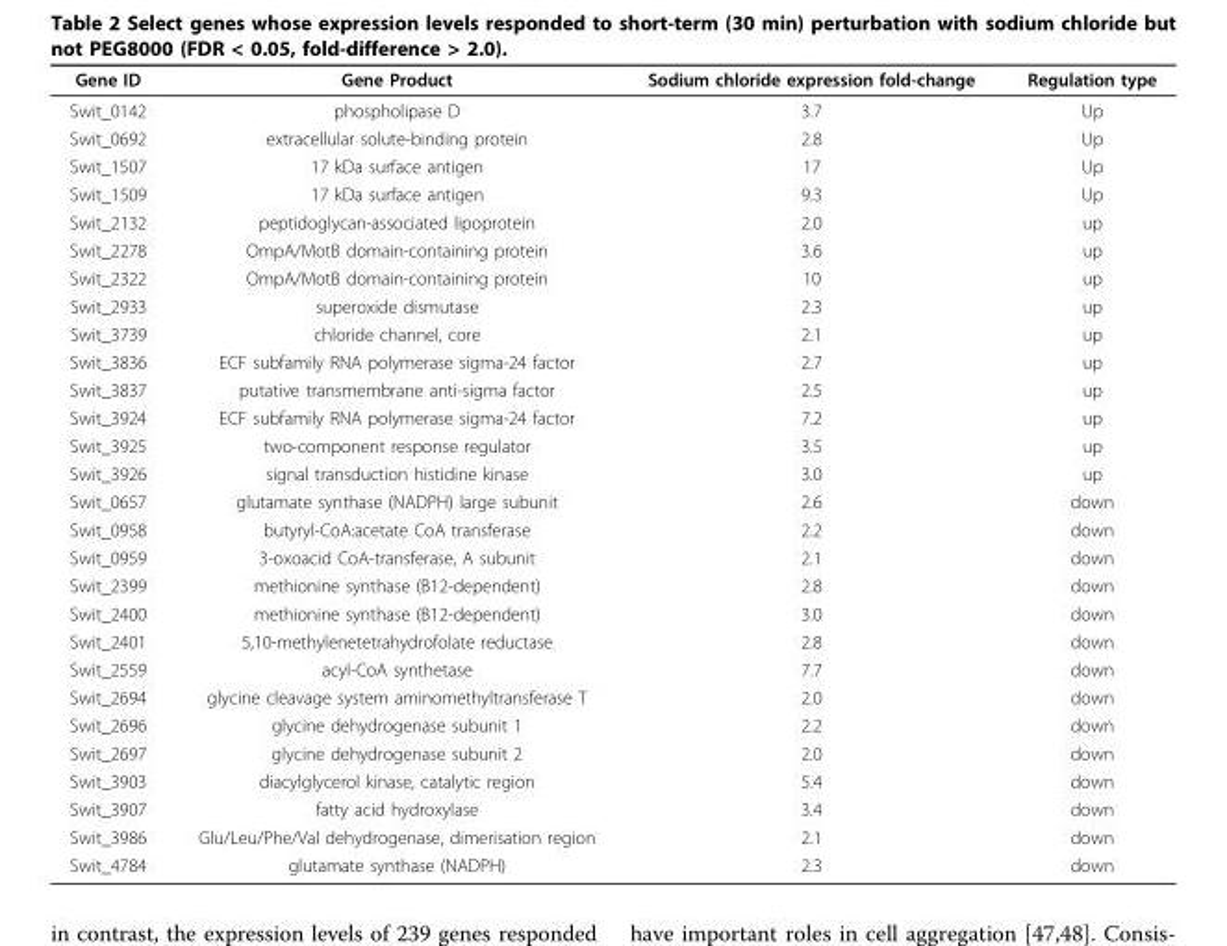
<table><thead><tr><td>Gene ID</td><td>Gene Product</td><td>Sodium chloride expression fold-change</td><td>Regulation type</td></tr></thead><tbody><tr><td>Swit_0142</td><td>phospholipase D</td><td>3.7</td><td>Up</td></tr><tr><td>Swit_0692</td><td>extracellular solute-binding protein</td><td>2.8</td><td>Up</td></tr><tr><td>Swit_1507</td><td>17 kDa surface antigen</td><td>17</td><td>Up</td></tr><tr><td>Swit_1509</td><td>17 kDa surface antigen</td><td>9.3</td><td>Up</td></tr><tr><td>Swit_2132</td><td>peptidoglycan-associated lipoprotein</td><td>2.0</td><td>up</td></tr><tr><td>Swit_2278</td><td>OmpA/MotB domain-containing protein</td><td>3.6</td><td>up</td></tr><tr><td>Swit_2322</td><td>OmpA/MotB domain-containing protein</td><td>10</td><td>up</td></tr><tr><td>Swit_2933</td><td>superoxide dismutase</td><td>2.3</td><td>up</td></tr><tr><td>Swit_3739</td><td>chloride channel, core</td><td>2.1</td><td>up</td></tr><tr><td>Swit_3836</td><td>ECF subfamily RNA polymerase sigma-24 factor</td><td>2.7</td><td>up</td></tr><tr><td>Swit_3837</td><td>putative transmembrane anti-sigma factor</td><td>2.5</td><td>up</td></tr><tr><td>Swit_3924</td><td>ECF subfamily RNA polymerase sigma-24 factor</td><td>7.2</td><td>up</td></tr><tr><td>Swit_3925</td><td>two-component response regulator</td><td>3.5</td><td>up</td></tr><tr><td>Swit_3926</td><td>signal transduction histidine kinase</td><td>3.0</td><td>up</td></tr><tr><td>Swit_0657</td><td>glutamate synthase (NADPH) large subunit</td><td>2.6</td><td>down</td></tr><tr><td>Swit_0958</td><td>butyryl-CoA:acetate CoA transferase</td><td>2.2</td><td>down</td></tr><tr><td>Swit_0959</td><td>3-oxoacid CoA-transferase, A subunit</td><td>2.1</td><td>down</td></tr><tr><td>Swit_2399</td><td>methionine synthase (B12-dependent)</td><td>2.8</td><td>down</td></tr><tr><td>Swit_2400</td><td>methionine synthase (B12-dependent)</td><td>3.0</td><td>down</td></tr><tr><td>Swit_2401</td><td>5,10-methylenetetrahydrofolate reductase</td><td>2.8</td><td>down</td></tr><tr><td>Swit_2559</td><td>acyl-CoA synthetase</td><td>7.7</td><td>down</td></tr><tr><td>Swit_2694</td><td>glycine cleavage system aminomethyltransferase T</td><td>2.0</td><td>down</td></tr><tr><td>Swit_2696</td><td>glycine dehydrogenase subunit 1</td><td>2.2</td><td>down</td></tr><tr><td>Swit_2697</td><td>glycine dehydrogenase subunit 2</td><td>2.0</td><td>down</td></tr><tr><td>Swit_3903</td><td>diacylglycerol kinase, catalytic region</td><td>5.4</td><td>down</td></tr><tr><td>Swit_3907</td><td>fatty acid hydroxylase</td><td>3.4</td><td>down</td></tr><tr><td>Swit_3986</td><td>Glu/Leu/Phe/Val dehydrogenase, dimerisation region</td><td>2.1</td><td>down</td></tr><tr><td>Swit_4784</td><td>glutamate synthase (NADPH)</td><td>2.3</td><td>down</td></tr></tbody></table>